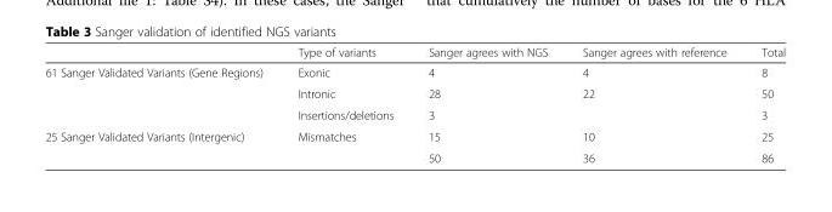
<table><thead><tr><td></td><td>Type of variants</td><td>Sanger agrees with NGS</td><td>Sanger agrees with reference</td><td>Total</td></tr></thead><tbody><tr><td rowspan="3">61 Sanger Validated Variants (Gene Regions)</td><td>Exonic</td><td>4</td><td>4</td><td>8</td></tr><tr><td>Intronic</td><td>28</td><td>22</td><td>50</td></tr><tr><td>Insertions/deletions</td><td>3</td><td></td><td>3</td></tr><tr><td>25 Sanger Validated Variants (Intergenic)</td><td>Mismatches</td><td>15</td><td>10</td><td>25</td></tr><tr><td colspan="2"></td><td>50</td><td>36</td><td>86</td></tr></tbody></table>